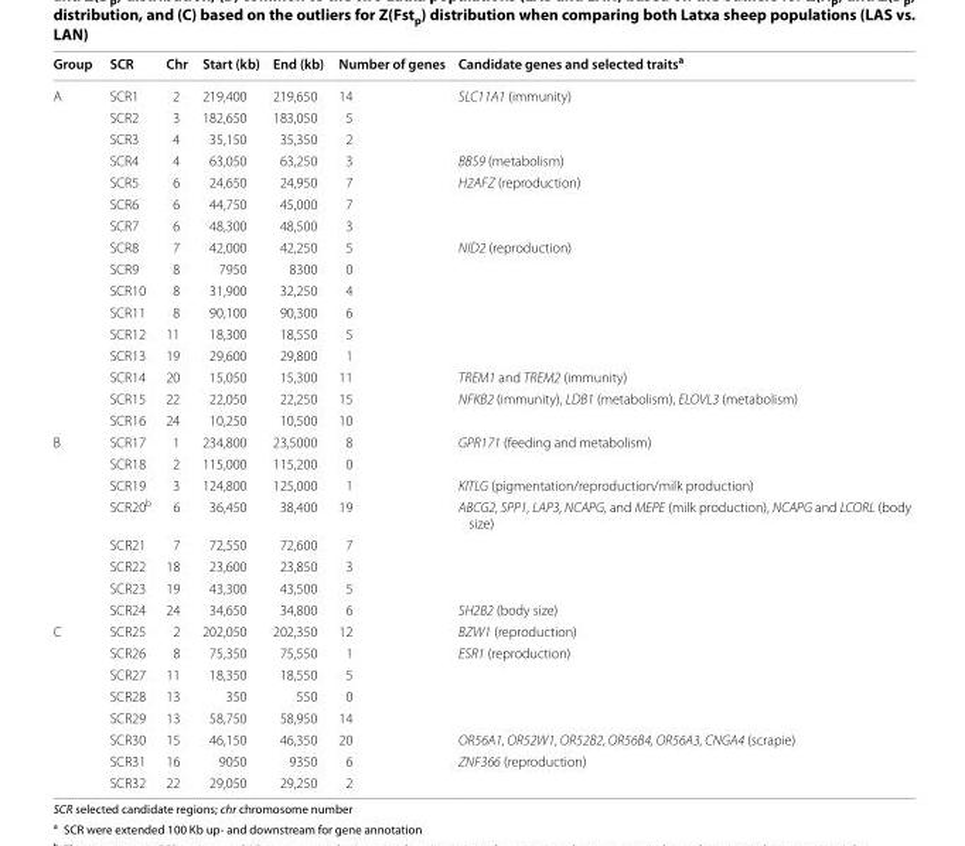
<table><thead><tr><td>Group</td><td>SCR</td><td>Chr</td><td>Start (kb)</td><td>End (kb)</td><td>Number of genes</td><td>Candidate genes and selected traits<sup>a</sup></td></tr></thead><tbody><tr><td rowspan="16">A</td><td>SCR1</td><td>2</td><td>219,400</td><td>219,650</td><td>14</td><td>SLC11A1 (immunity)</td></tr><tr><td>SCR2</td><td>3</td><td>182,650</td><td>183,050</td><td>5</td><td></td></tr><tr><td>SCR3</td><td>4</td><td>35,150</td><td>35,350</td><td>2</td><td></td></tr><tr><td>SCR4</td><td>4</td><td>63,050</td><td>63,250</td><td>3</td><td>BBS9 (metabolism)</td></tr><tr><td>SCR5</td><td>6</td><td>24,650</td><td>24,950</td><td>7</td><td>H2AFZ (reproduction)</td></tr><tr><td>SCR6</td><td>6</td><td>44,750</td><td>45,000</td><td>7</td><td></td></tr><tr><td>SCR7</td><td>6</td><td>48,300</td><td>48,500</td><td>3</td><td></td></tr><tr><td>SCR8</td><td>7</td><td>42,000</td><td>42,250</td><td>5</td><td>NID2 (reproduction)</td></tr><tr><td>SCR9</td><td>8</td><td>7950</td><td>8300</td><td>0</td><td></td></tr><tr><td>SCR10</td><td>8</td><td>31,900</td><td>32,250</td><td>4</td><td></td></tr><tr><td>SCR11</td><td>8</td><td>90,100</td><td>90,300</td><td>6</td><td></td></tr><tr><td>SCR12</td><td>11</td><td>18,300</td><td>18,550</td><td>5</td><td></td></tr><tr><td>SCR13</td><td>19</td><td>29,600</td><td>29,800</td><td>1</td><td></td></tr><tr><td>SCR14</td><td>20</td><td>15,050</td><td>15,300</td><td>11</td><td>TREM1 and TREM2 (immunity)</td></tr><tr><td>SCR15</td><td>22</td><td>22,050</td><td>22,250</td><td>15</td><td>NFKB2 (immunity), LDB1 (metabolism), ELOVL3 (metabolism)</td></tr><tr><td>SCR16</td><td>24</td><td>10,250</td><td>10,500</td><td>10</td><td></td></tr><tr><td rowspan="8">B</td><td>SCR17</td><td>1</td><td>234,800</td><td>23,5000</td><td>8</td><td>GPR171 (feeding and metabolism)</td></tr><tr><td>SCR18</td><td>2</td><td>115,000</td><td>115,200</td><td>0</td><td></td></tr><tr><td>SCR19</td><td>3</td><td>124,800</td><td>125,000</td><td>1</td><td>KITLG (pigmentation/reproduction/milk production)</td></tr><tr><td>SCR20<sup>b</sup></td><td>6</td><td>36,450</td><td>38,400</td><td>19</td><td>ABCG2, SPP1, LAP3, NCAPG, and MEPE (milk production), NCAPG and LCORL (body size)</td></tr><tr><td>SCR21</td><td>7</td><td>72,550</td><td>72,600</td><td>7</td><td></td></tr><tr><td>SCR22</td><td>18</td><td>23,600</td><td>23,850</td><td>3</td><td></td></tr><tr><td>SCR23</td><td>19</td><td>43,300</td><td>43,500</td><td>5</td><td></td></tr><tr><td>SCR24</td><td>24</td><td>34,650</td><td>34,800</td><td>6</td><td>SH2B2 (body size)</td></tr><tr><td rowspan="8">C</td><td>SCR25</td><td>2</td><td>202,050</td><td>202,350</td><td>12</td><td>BZW1 (reproduction)</td></tr><tr><td>SCR26</td><td>8</td><td>75,350</td><td>75,550</td><td>1</td><td>ESR1 (reproduction)</td></tr><tr><td>SCR27</td><td>11</td><td>18,350</td><td>18,550</td><td>5</td><td></td></tr><tr><td>SCR28</td><td>13</td><td>350</td><td>550</td><td>0</td><td></td></tr><tr><td>SCR29</td><td>13</td><td>58,750</td><td>58,950</td><td>14</td><td></td></tr><tr><td>SCR30</td><td>15</td><td>46,150</td><td>46,350</td><td>20</td><td>OR56A1, OR52W1, OR52B2, OR56B4, OR56A3, CNGA4 (scrapie)</td></tr><tr><td>SCR31</td><td>16</td><td>9050</td><td>9350</td><td>6</td><td>ZNF366 (reproduction)</td></tr><tr><td>SCR32</td><td>22</td><td>29,050</td><td>29,250</td><td>2</td><td></td></tr></tbody></table>